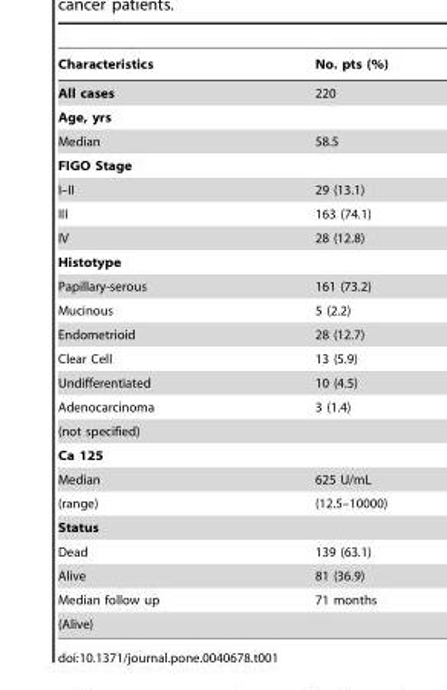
<table><thead><tr><td>Characteristics</td><td>No. pts (%)</td></tr></thead><tbody><tr><td>All cases</td><td>220</td></tr><tr><td colspan="2">Age, yrs</td></tr><tr><td>Median</td><td>58.5</td></tr><tr><td colspan="2">FIGO Stage</td></tr><tr><td>I–II</td><td>29 (13.1)</td></tr><tr><td>III</td><td>163 (74.1)</td></tr><tr><td>IV</td><td>28 (12.8)</td></tr><tr><td colspan="2">Histotype</td></tr><tr><td>Papillary-serous</td><td>161 (73.2)</td></tr><tr><td>Mucinous</td><td>5 (2.2)</td></tr><tr><td>Endometrioid</td><td>28 (12.7)</td></tr><tr><td>Clear Cell</td><td>13 (5.9)</td></tr><tr><td>Undifferentiated</td><td>10 (4.5)</td></tr><tr><td>Adenocarcinoma</td><td>3 (1.4)</td></tr><tr><td colspan="2">(not specified)</td></tr><tr><td colspan="2">Ca 125</td></tr><tr><td>Median</td><td>625 U/mL</td></tr><tr><td>(range)</td><td>(12.5–10000)</td></tr><tr><td colspan="2">Status</td></tr><tr><td>Dead</td><td>139 (63.1)</td></tr><tr><td>Alive</td><td>81 (36.9)</td></tr><tr><td>Median follow up</td><td>71 months</td></tr><tr><td>(Alive)</td><td></td></tr></tbody></table>